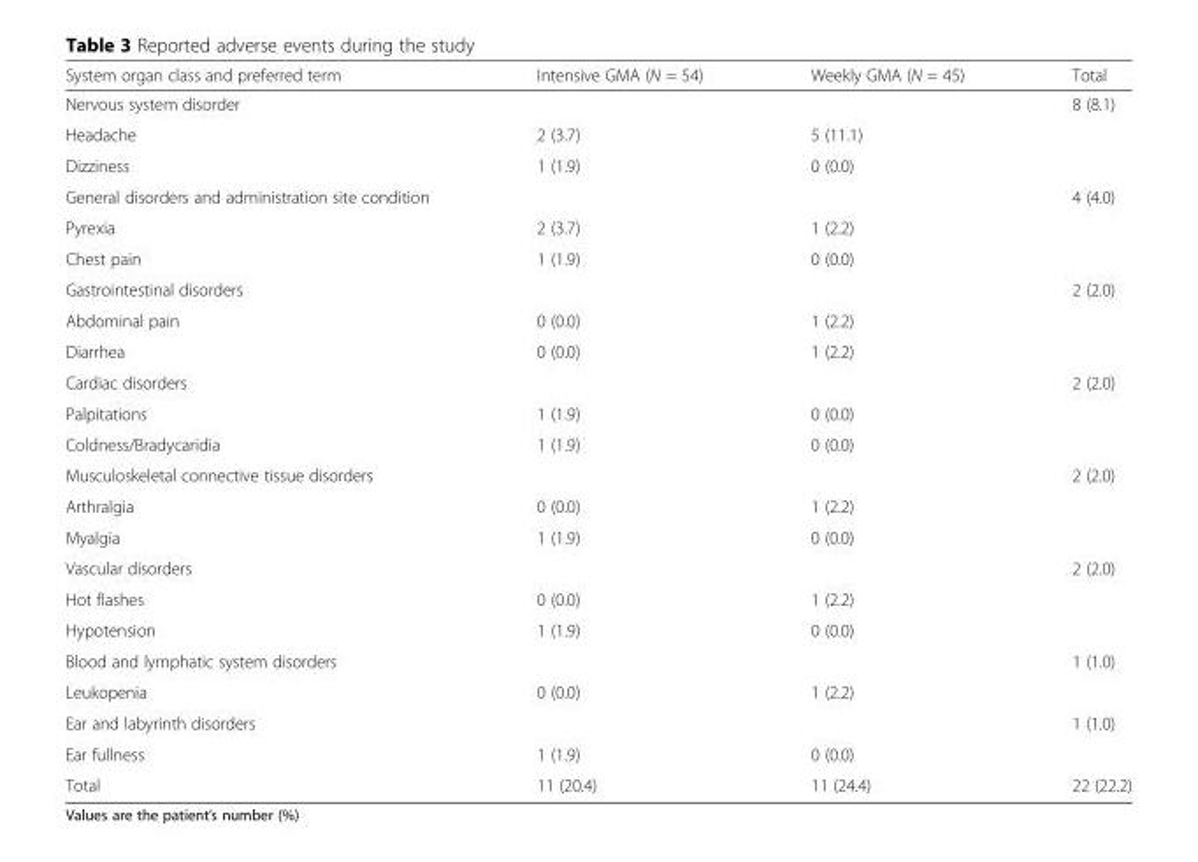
<table><thead><tr><td>System organ class and preferred term</td><td>Intensive GMA (N = 54)</td><td>Weekly GMA (N = 45)</td><td>Total</td></tr></thead><tbody><tr><td>Nervous system disorder</td><td></td><td></td><td>8 (8.1)</td></tr><tr><td>Headache</td><td>2 (3.7)</td><td>5 (11.1)</td><td></td></tr><tr><td>Dizziness</td><td>1 (1.9)</td><td>0 (0.0)</td><td></td></tr><tr><td>General disorders and administration site condition</td><td></td><td></td><td>4 (4.0)</td></tr><tr><td>Pyrexia</td><td>2 (3.7)</td><td>1 (2.2)</td><td></td></tr><tr><td>Chest pain</td><td>1 (1.9)</td><td>0 (0.0)</td><td></td></tr><tr><td>Gastrointestinal disorders</td><td></td><td></td><td>2 (2.0)</td></tr><tr><td>Abdominal pain</td><td>0 (0.0)</td><td>1 (2.2)</td><td></td></tr><tr><td>Diarrhea</td><td>0 (0.0)</td><td>1 (2.2)</td><td></td></tr><tr><td>Cardiac disorders</td><td></td><td></td><td>2 (2.0)</td></tr><tr><td>Palpitations</td><td>1 (1.9)</td><td>0 (0.0)</td><td></td></tr><tr><td>Coldness/Bradycaridia</td><td>1 (1.9)</td><td>0 (0.0)</td><td></td></tr><tr><td>Musculoskeletal connective tissue disorders</td><td></td><td></td><td>2 (2.0)</td></tr><tr><td>Arthralgia</td><td>0 (0.0)</td><td>1 (2.2)</td><td></td></tr><tr><td>Myalgia</td><td>1 (1.9)</td><td>0 (0.0)</td><td></td></tr><tr><td>Vascular disorders</td><td></td><td></td><td>2 (2.0)</td></tr><tr><td>Hot flashes</td><td>0 (0.0)</td><td>1 (2.2)</td><td></td></tr><tr><td>Hypotension</td><td>1 (1.9)</td><td>0 (0.0)</td><td></td></tr><tr><td>Blood and lymphatic system disorders</td><td></td><td></td><td>1 (1.0)</td></tr><tr><td>Leukopenia</td><td>0 (0.0)</td><td>1 (2.2)</td><td></td></tr><tr><td>Ear and labyrinth disorders</td><td></td><td></td><td>1 (1.0)</td></tr><tr><td>Ear fullness</td><td>1 (1.9)</td><td>0 (0.0)</td><td></td></tr><tr><td>Total</td><td>11 (20.4)</td><td>11 (24.4)</td><td>22 (22.2)</td></tr></tbody></table>